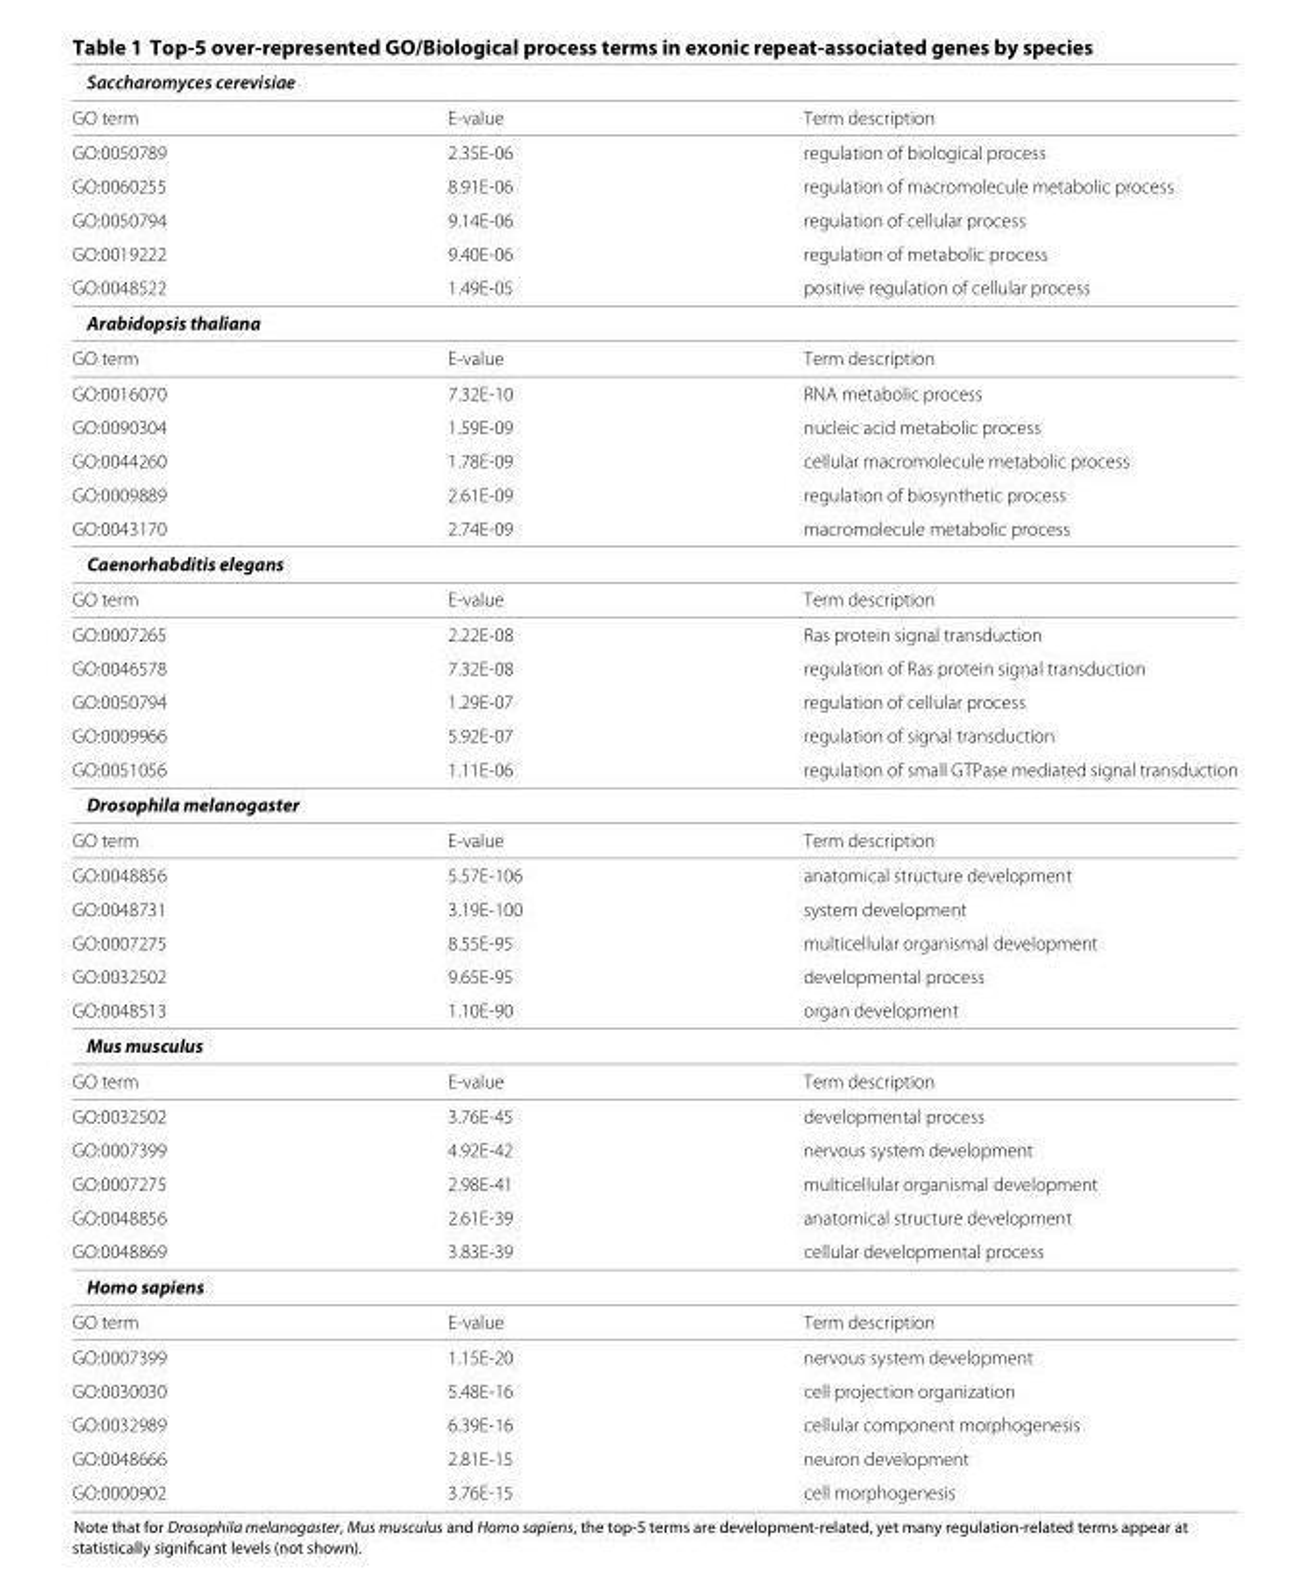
<table><thead><tr><td colspan="3">Saccharomyces cerevisiae</td></tr><tr><td>GO term</td><td>E-value</td><td>Term description</td></tr></thead><tbody><tr><td>GO:0050789</td><td>2.35E-06</td><td>regulation of biological process</td></tr><tr><td>GO:0060255</td><td>8.91E-06</td><td>regulation of macromolecule metabolic process</td></tr><tr><td>GO:0050794</td><td>9.14E-06</td><td>regulation of cellular process</td></tr><tr><td>GO:0019222</td><td>9.40E-06</td><td>regulation of metabolic process</td></tr><tr><td>GO:0048522</td><td>1.49E-05</td><td>positive regulation of cellular process</td></tr><tr><td colspan="3">Arabidopsis thaliana</td></tr><tr><td>GO term</td><td>E-value</td><td>Term description</td></tr><tr><td>GO:0016070</td><td>7.32E-10</td><td>RNA metabolic process</td></tr><tr><td>GO:0090304</td><td>1.59E-09</td><td>nucleic acid metabolic process</td></tr><tr><td>GO:0044260</td><td>1.78E-09</td><td>cellular macromolecule metabolic process</td></tr><tr><td>GO:0009889</td><td>2.61E-09</td><td>regulation of biosynthetic process</td></tr><tr><td>GO:0043170</td><td>2.74E-09</td><td>macromolecule metabolic process</td></tr><tr><td colspan="3">Caenorhabditis elegans</td></tr><tr><td>GO term</td><td>E-value</td><td>Term description</td></tr><tr><td>GO:0007265</td><td>2.22E-08</td><td>Ras protein signal transduction</td></tr><tr><td>GO:0046578</td><td>7.32E-08</td><td>regulation of Ras protein signal transduction</td></tr><tr><td>GO:0050794</td><td>1.29E-07</td><td>regulation of cellular process</td></tr><tr><td>GO:0009966</td><td>5.92E-07</td><td>regulation of signal transduction</td></tr><tr><td>GO:0051056</td><td>1.11E-06</td><td>regulation of small GTPase mediated signal transduction</td></tr><tr><td colspan="3">Drosophila melanogaster</td></tr><tr><td>GO term</td><td>E-value</td><td>Term description</td></tr><tr><td>GO:0048856</td><td>5.57E-106</td><td>anatomical structure development</td></tr><tr><td>GO:0048731</td><td>3.19E-100</td><td>system development</td></tr><tr><td>GO:0007275</td><td>8.55E-95</td><td>multicellular organismal development</td></tr><tr><td>GO:0032502</td><td>9.65E-95</td><td>developmental process</td></tr><tr><td>GO:0048513</td><td>1.10E-90</td><td>organ development</td></tr><tr><td colspan="3">Mus musculus</td></tr><tr><td>GO term</td><td>E-value</td><td>Term description</td></tr><tr><td>GO:0032502</td><td>3.76E-45</td><td>developmental process</td></tr><tr><td>GO:0007399</td><td>4.92E-42</td><td>nervous system development</td></tr><tr><td>GO:0007275</td><td>2.98E-41</td><td>multicellular organismal development</td></tr><tr><td>GO:0048856</td><td>2.61E-39</td><td>anatomical structure development</td></tr><tr><td>GO:0048869</td><td>3.83E-39</td><td>cellular developmental process</td></tr><tr><td colspan="3">Homo sapiens</td></tr><tr><td>GO term</td><td>E-value</td><td>Term description</td></tr><tr><td>GO:0007399</td><td>1.15E-20</td><td>nervous system development</td></tr><tr><td>GO:0030030</td><td>5.48E-16</td><td>cell projection organization</td></tr><tr><td>GO:0032989</td><td>6.39E-16</td><td>cellular component morphogenesis</td></tr><tr><td>GO:0048666</td><td>2.81E-15</td><td>neuron development</td></tr><tr><td>GO:0000902</td><td>3.76E-15</td><td>cell morphogenesis</td></tr></tbody></table>